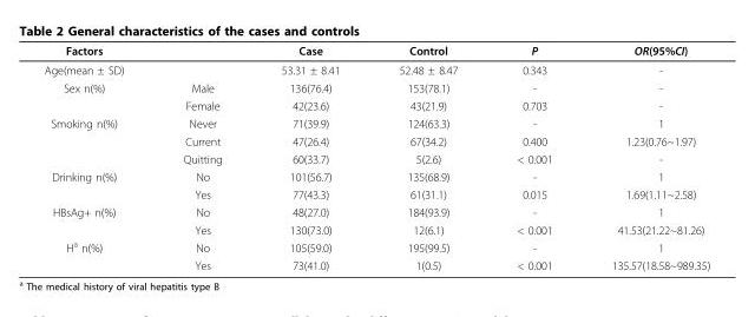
<table><thead><tr><td>Factors</td><td></td><td>Case</td><td>Control</td><td>P</td><td>OR(95%CI)</td></tr></thead><tbody><tr><td>Age(mean ± SD)</td><td></td><td>53.31 ± 8.41</td><td>52.48 ± 8.47</td><td>0.343</td><td>-</td></tr><tr><td rowspan="2">Sex n(%)</td><td>Male</td><td>136(76.4)</td><td>153(78.1)</td><td>-</td><td>-</td></tr><tr><td>Female</td><td>42(23.6)</td><td>43(21.9)</td><td>0.703</td><td>-</td></tr><tr><td rowspan="3">Smoking n(%)</td><td>Never</td><td>71(39.9)</td><td>124(63.3)</td><td>-</td><td>1</td></tr><tr><td>Current</td><td>47(26.4)</td><td>67(34.2)</td><td>0.400</td><td>1.23(0.76~1.97)</td></tr><tr><td>Quitting</td><td>60(33.7)</td><td>5(2.6)</td><td>&lt; 0.001</td><td>-</td></tr><tr><td rowspan="2">Drinking n(%)</td><td>No</td><td>101(56.7)</td><td>135(68.9)</td><td>-</td><td>1</td></tr><tr><td>Yes</td><td>77(43.3)</td><td>61(31.1)</td><td>0.015</td><td>1.69(1.11~2.58)</td></tr><tr><td rowspan="2">HBsAg+ n(%)</td><td>No</td><td>48(27.0)</td><td>184(93.9)</td><td>-</td><td>1</td></tr><tr><td>Yes</td><td>130(73.0)</td><td>12(6.1)</td><td>&lt; 0.001</td><td>41.53(21.22~81.26)</td></tr><tr><td rowspan="2">H<sup>a</sup> n(%)</td><td>No</td><td>105(59.0)</td><td>195(99.5)</td><td>-</td><td>1</td></tr><tr><td>Yes</td><td>73(41.0)</td><td>1(0.5)</td><td>&lt; 0.001</td><td>135.57(18.58~989.35)</td></tr></tbody></table>